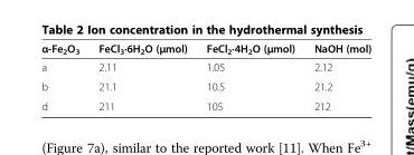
<table><thead><tr><td>α-Fe<sub>2</sub>O<sub>3</sub></td><td>FeCl<sub>3</sub>·6H<sub>2</sub>O (μmol)</td><td>FeCl<sub>2</sub>·4H<sub>2</sub>O (μmol)</td><td>NaOH (mol)</td></tr></thead><tbody><tr><td>a</td><td>2.11</td><td>1.05</td><td>2.12</td></tr><tr><td>b</td><td>21.1</td><td>10.5</td><td>21.2</td></tr><tr><td>d</td><td>211</td><td>105</td><td>212</td></tr></tbody></table>